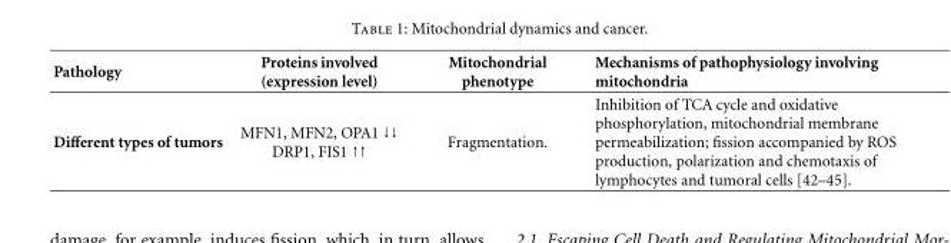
<table><thead><tr><td>Pathology</td><td>Proteins involved (expression level)</td><td>Mitochondrial phenotype</td><td>Mechanisms of pathophysiology involving mitochondria</td></tr></thead><tbody><tr><td>Different types of tumors</td><td>MFN1, MFN2, OPA1 ↓↓ DRP1, FIS1 ↑↑</td><td>Fragmentation.</td><td>Inhibition of TCA cycle and oxidative phosphorylation, mitochondrial membrane permeabilization; fission accompanied by ROS production, polarization and chemotaxis of lymphocytes and tumoral cells [42–45].</td></tr></tbody></table>